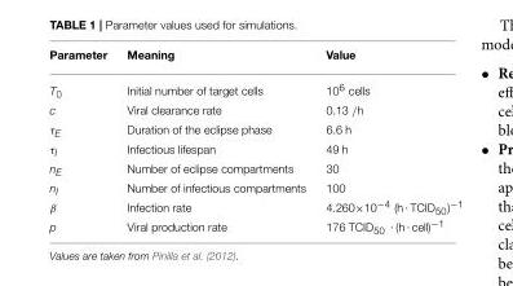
<table><thead><tr><td>Parameter</td><td>Meaning</td><td>Value</td></tr></thead><tbody><tr><td>T<sub>0</sub></td><td>Initial number of target cells</td><td>10<sup>6</sup> cells</td></tr><tr><td>c</td><td>Viral clearance rate</td><td>0.13 /h</td></tr><tr><td>τ<sub>E</sub></td><td>Duration of the eclipse phase</td><td>6.6 h</td></tr><tr><td>τ<sub>I</sub></td><td>Infectious lifespan</td><td>49 h</td></tr><tr><td>n<sub>E</sub></td><td>Number of eclipse compartments</td><td>30</td></tr><tr><td>n<sub>I</sub></td><td>Number of infectious compartments</td><td>100</td></tr><tr><td>β</td><td>Infection rate</td><td>4.260×10<sup>−4</sup> (h · TCID<sub>50</sub>)<sup>−1</sup></td></tr><tr><td>p</td><td>Viral production rate</td><td>176 TCID<sub>50</sub> · (h · cell)<sup>−1</sup></td></tr></tbody></table>